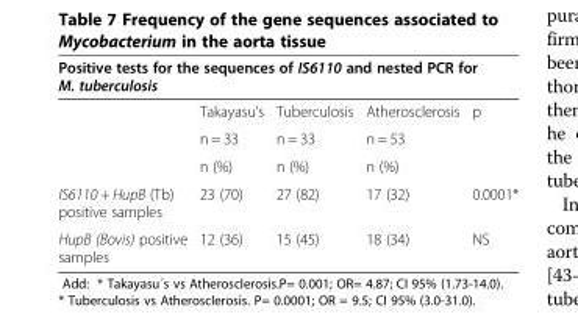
<table><thead><tr><td colspan="5">Positive tests for the sequences of IS6110 and nested PCR for M. tuberculosis</td></tr><tr><td></td><td>Takayasu’s</td><td>Tuberculosis</td><td>Atherosclerosis</td><td>p</td></tr></thead><tbody><tr><td></td><td>n = 33</td><td>n = 33</td><td>n = 53</td><td></td></tr><tr><td></td><td>n (%)</td><td>n (%)</td><td>n (%)</td><td></td></tr><tr><td>IS6110 + HupB (Tb) positive samples</td><td>23 (70)</td><td>27 (82)</td><td>17 (32)</td><td>0.0001*</td></tr><tr><td>HupB (Bovis) positive samples</td><td>12 (36)</td><td>15 (45)</td><td>18 (34)</td><td>NS</td></tr></tbody></table>